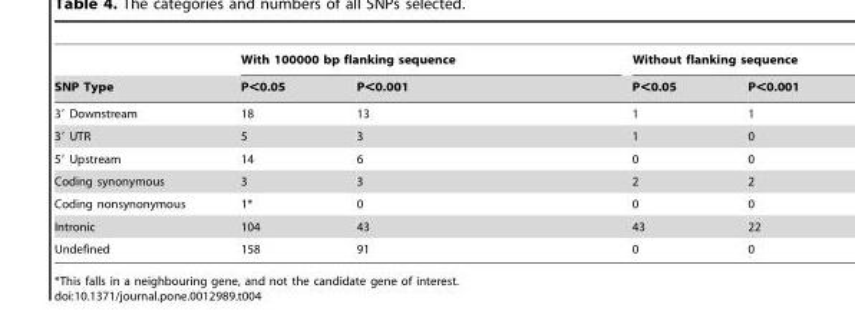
<table><thead><tr><td rowspan="2">SNP Type</td><td colspan="2">With 100000 bp flanking sequence</td><td colspan="2">Without flanking sequence</td></tr><tr><td>P&lt;0.05</td><td>P&lt;0.001</td><td>P&lt;0.05</td><td>P&lt;0.001</td></tr></thead><tbody><tr><td>3′ Downstream</td><td>18</td><td>13</td><td>1</td><td>1</td></tr><tr><td>3′ UTR</td><td>5</td><td>3</td><td>1</td><td>0</td></tr><tr><td>5′ Upstream</td><td>14</td><td>6</td><td>0</td><td>0</td></tr><tr><td>Coding synonymous</td><td>3</td><td>3</td><td>2</td><td>2</td></tr><tr><td>Coding nonsynonymous</td><td>1*</td><td>0</td><td>0</td><td>0</td></tr><tr><td>Intronic</td><td>104</td><td>43</td><td>43</td><td>22</td></tr><tr><td>Undefined</td><td>158</td><td>91</td><td>0</td><td>0</td></tr></tbody></table>